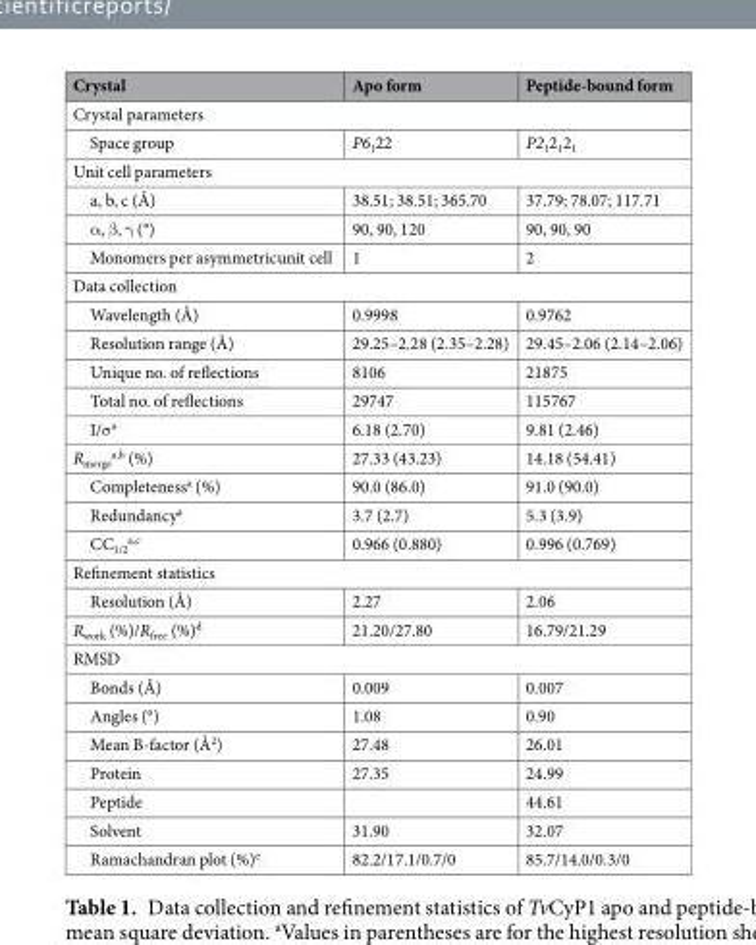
<table><thead><tr><td>Crystal</td><td>Apo form</td><td>Peptide-bound form</td></tr></thead><tbody><tr><td colspan="3">Crystal parameters</td></tr><tr><td>Space group</td><td>P6<sub>1</sub>22</td><td>P2<sub>1</sub>2<sub>1</sub>2<sub>1</sub></td></tr><tr><td colspan="3">Unit cell parameters</td></tr><tr><td>a, b, c (Å)</td><td>38.51; 38.51; 365.70</td><td>37.79; 78.07; 117.71</td></tr><tr><td>α, β, γ (°)</td><td>90, 90, 120</td><td>90, 90, 90</td></tr><tr><td>Monomers per asymmetricunit cell</td><td>1</td><td>2</td></tr><tr><td colspan="3">Data collection</td></tr><tr><td>Wavelength (Å)</td><td>0.9998</td><td>0.9762</td></tr><tr><td>Resolution range (Å)</td><td>29.25–2.28 (2.35–2.28)</td><td>29.45–2.06 (2.14–2.06)</td></tr><tr><td>Unique no. of reflections</td><td>8106</td><td>21875</td></tr><tr><td>Total no. of reflections</td><td>29747</td><td>115767</td></tr><tr><td>I/σ<sup>a</sup></td><td>6.18 (2.70)</td><td>9.81 (2.46)</td></tr><tr><td>R<sub>merge</sub> <sup>a,b</sup> (%)</td><td>27.33 (43.23)</td><td>14.18 (54.41)</td></tr><tr><td>Completeness<sup>a</sup> (%)</td><td>90.0 (86.0)</td><td>91.0 (90.0)</td></tr><tr><td>Redundancy<sup>a</sup></td><td>3.7 (2.7)</td><td>5.3 (3.9)</td></tr><tr><td>CC<sub>1/2</sub> <sup>a,c</sup></td><td>0.966 (0.880)</td><td>0.996 (0.769)</td></tr><tr><td colspan="3">Refinement statistics</td></tr><tr><td>Resolution (Å)</td><td>2.27</td><td>2.06</td></tr><tr><td>R<sub>work</sub> (%)/R<sub>free</sub> (%)<sup>d</sup></td><td>21.20/27.80</td><td>16.79/21.29</td></tr><tr><td colspan="3">RMSD</td></tr><tr><td>Bonds (Å)</td><td>0.009</td><td>0.007</td></tr><tr><td>Angles (°)</td><td>1.08</td><td>0.90</td></tr><tr><td>Mean B-factor (Å<sup>2</sup>)</td><td>27.48</td><td>26.01</td></tr><tr><td>Protein</td><td>27.35</td><td>24.99</td></tr><tr><td>Peptide</td><td></td><td>44.61</td></tr><tr><td>Solvent</td><td>31.90</td><td>32.07</td></tr><tr><td>Ramachandran plot (%)<sup>e</sup></td><td>82.2/17.1/0.7/0</td><td>85.7/14.0/0.3/0</td></tr></tbody></table>